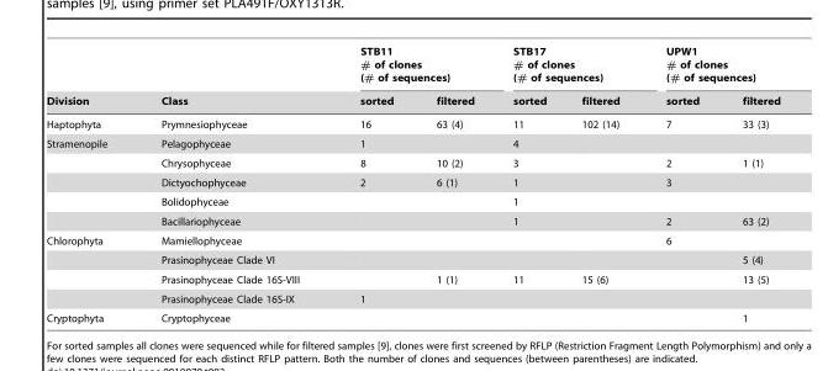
<table><thead><tr><td rowspan="2">Division</td><td rowspan="2">Class</td><td colspan="2">STB11 # of clones (# of sequences)</td><td colspan="2">STB17 # of clones (# of sequences)</td><td colspan="2">UPW1 # of clones (# of sequences)</td></tr><tr><td>sorted</td><td>filtered</td><td>sorted</td><td>filtered</td><td>sorted</td><td>filtered</td></tr></thead><tbody><tr><td>Haptophyta</td><td>Prymnesiophyceae</td><td>16</td><td>63 (4)</td><td>11</td><td>102 (14)</td><td>7</td><td>33 (3)</td></tr><tr><td rowspan="5">Stramenopile</td><td>Pelagophyceae</td><td>1</td><td></td><td>4</td><td></td><td></td><td></td></tr><tr><td>Chrysophyceae</td><td>8</td><td>10 (2)</td><td>3</td><td></td><td>2</td><td>1 (1)</td></tr><tr><td>Dictyochophyceae</td><td>2</td><td>6 (1)</td><td>1</td><td></td><td>3</td><td></td></tr><tr><td>Bolidophyceae</td><td></td><td></td><td>1</td><td></td><td></td><td></td></tr><tr><td>Bacillariophyceae</td><td></td><td></td><td>1</td><td></td><td>2</td><td>63 (2)</td></tr><tr><td rowspan="4">Chlorophyta</td><td>Mamiellophyceae</td><td></td><td></td><td></td><td></td><td>6</td><td></td></tr><tr><td>Prasinophyceae Clade VI</td><td></td><td></td><td></td><td></td><td></td><td>5 (4)</td></tr><tr><td>Prasinophyceae Clade 16S-VIII</td><td></td><td>1 (1)</td><td>11</td><td>15 (6)</td><td></td><td>13 (5)</td></tr><tr><td>Prasinophyceae Clade 16S-IX</td><td>1</td><td></td><td></td><td></td><td></td><td></td></tr><tr><td>Cryptophyta</td><td>Cryptophyceae</td><td></td><td></td><td></td><td></td><td></td><td>1</td></tr></tbody></table>